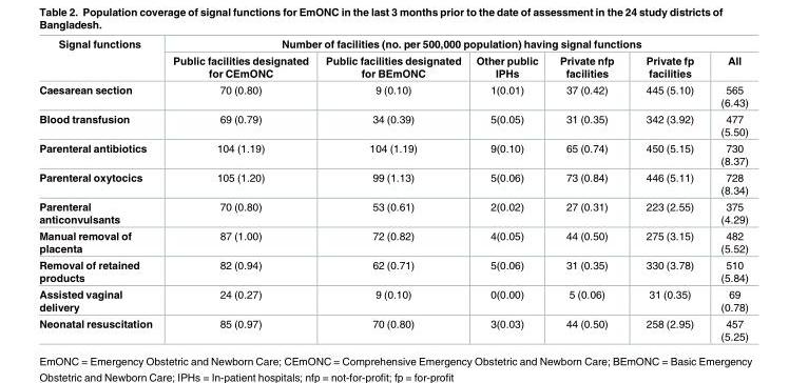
<table><thead><tr><td rowspan="2">Signal functions</td><td colspan="6">Number of facilities (no. per 500,000 population) having signal functions</td></tr><tr><td>Public facilities designated for CEmONC</td><td>Public facilities designated for BEmONC</td><td>Other public IPHs</td><td>Private nfp facilities</td><td>Private fp facilities</td><td>All</td></tr></thead><tbody><tr><td>Caesarean section</td><td>70 (0.80)</td><td>9 (0.10)</td><td>1(0.01)</td><td>37 (0.42)</td><td>445 (5.10)</td><td>565 (6.43)</td></tr><tr><td>Blood transfusion</td><td>69 (0.79)</td><td>34 (0.39)</td><td>5(0.05)</td><td>31 (0.35)</td><td>342 (3.92)</td><td>477 (5.50)</td></tr><tr><td>Parenteral antibiotics</td><td>104 (1.19)</td><td>104 (1.19)</td><td>9(0.10)</td><td>65 (0.74)</td><td>450 (5.15)</td><td>730 (8.37)</td></tr><tr><td>Parenteral oxytocics</td><td>105 (1.20)</td><td>99 (1.13)</td><td>5(0.06)</td><td>73 (0.84)</td><td>446 (5.11)</td><td>728 (8.34)</td></tr><tr><td>Parenteral anticonvulsants</td><td>70 (0.80)</td><td>53 (0.61)</td><td>2(0.02)</td><td>27 (0.31)</td><td>223 (2.55)</td><td>375 (4.29)</td></tr><tr><td>Manual removal of placenta</td><td>87 (1.00)</td><td>72 (0.82)</td><td>4(0.05)</td><td>44 (0.50)</td><td>275 (3.15)</td><td>482 (5.52)</td></tr><tr><td>Removal of retained products</td><td>82 (0.94)</td><td>62 (0.71)</td><td>5(0.06)</td><td>31 (0.35)</td><td>330 (3.78)</td><td>510 (5.84)</td></tr><tr><td>Assisted vaginal delivery</td><td>24 (0.27)</td><td>9 (0.10)</td><td>0(0.00)</td><td>5 (0.06)</td><td>31 (0.35)</td><td>69 (0.78)</td></tr><tr><td>Neonatal resuscitation</td><td>85 (0.97)</td><td>70 (0.80)</td><td>3(0.03)</td><td>44 (0.50)</td><td>258 (2.95)</td><td>457 (5.25)</td></tr></tbody></table>